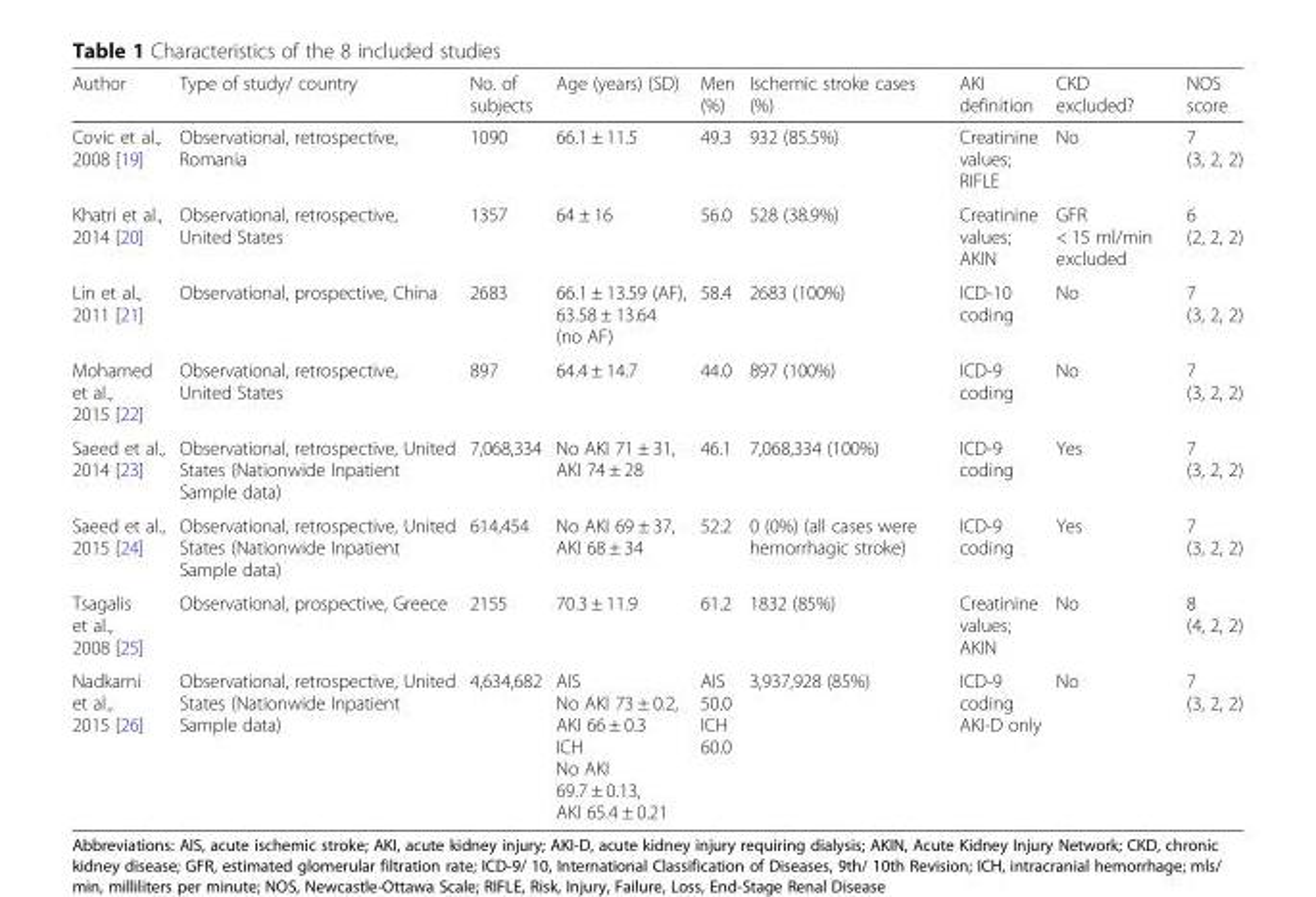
<table><thead><tr><td>Author</td><td>Type of study/ country</td><td>No. of subjects</td><td>Age (years) (SD)</td><td>Men (%)</td><td>Ischemic stroke cases (%)</td><td>AKI definition</td><td>CKD excluded?</td><td>NOS score</td></tr></thead><tbody><tr><td>Covic et al., 2008 [19]</td><td>Observational, retrospective, Romania</td><td>1090</td><td>66.1 ± 11.5</td><td>49.3</td><td>932 (85.5%)</td><td>Creatinine values; RIFLE</td><td>No</td><td>7 (3, 2, 2)</td></tr><tr><td>Khatri et al., 2014 [20]</td><td>Observational, retrospective, United States</td><td>1357</td><td>64 ± 16</td><td>56.0</td><td>528 (38.9%)</td><td>Creatinine values; AKIN</td><td>GFR &lt; 15 ml/min excluded</td><td>6 (2, 2, 2)</td></tr><tr><td>Lin et al., 2011 [21]</td><td>Observational, prospective, China</td><td>2683</td><td>66.1 ± 13.59 (AF), 63.58 ± 13.64 (no AF)</td><td>58.4</td><td>2683 (100%)</td><td>ICD-10 coding</td><td>No</td><td>7 (3, 2, 2)</td></tr><tr><td>Mohamed et al., 2015 [22]</td><td>Observational, retrospective, United States</td><td>897</td><td>64.4 ± 14.7</td><td>44.0</td><td>897 (100%)</td><td>ICD-9 coding</td><td>No</td><td>7 (3, 2, 2)</td></tr><tr><td>Saeed et al., 2014 [23]</td><td>Observational, retrospective, United States (Nationwide Inpatient Sample data)</td><td>7,068,334</td><td>No AKI 71 ± 31, AKI 74 ± 28</td><td>46.1</td><td>7,068,334 (100%)</td><td>ICD-9 coding</td><td>Yes</td><td>7 (3, 2, 2)</td></tr><tr><td>Saeed et al., 2015 [24]</td><td>Observational, retrospective, United States (Nationwide Inpatient Sample data)</td><td>614,454</td><td>No AKI 69 ± 37, AKI 68 ± 34</td><td>52.2</td><td>0 (0%) (all cases were hemorrhagic stroke)</td><td>ICD-9 coding</td><td>Yes</td><td>7 (3, 2, 2)</td></tr><tr><td>Tsagalis et al., 2008 [25]</td><td>Observational, prospective, Greece</td><td>2155</td><td>70.3 ± 11.9</td><td>61.2</td><td>1832 (85%)</td><td>Creatinine values; AKIN</td><td>No</td><td>8 (4, 2, 2)</td></tr><tr><td>Nadkarni et al., 2015 [26]</td><td>Observational, retrospective, United States (Nationwide Inpatient Sample data)</td><td>4,634,682</td><td>AIS No AKI 73 ± 0.2, AKI 66 ± 0.3 ICH No AKI 69.7 ± 0.13, AKI 65.4 ± 0.21</td><td>AIS 50.0 ICH 60.0</td><td>3,937,928 (85%)</td><td>ICD-9 coding AKI-D only</td><td>No</td><td>7 (3, 2, 2)</td></tr></tbody></table>